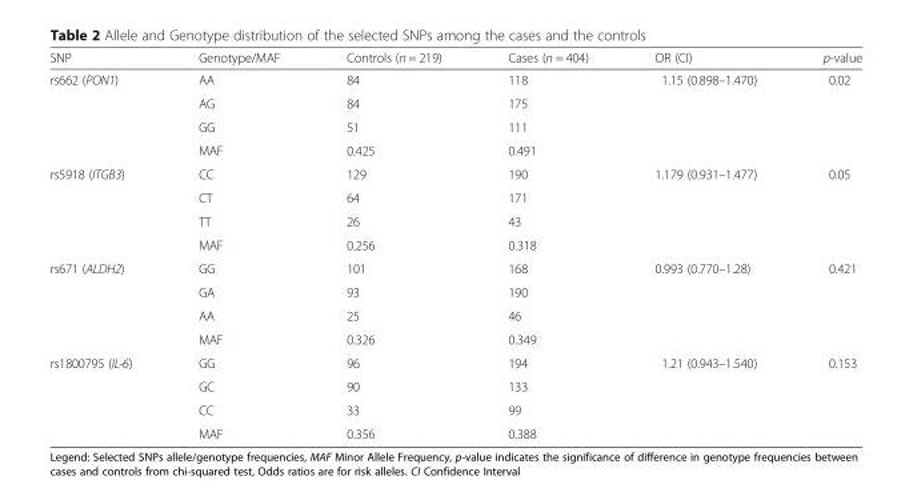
<table><thead><tr><td>SNP</td><td>Genotype/MAF</td><td>Controls (n = 219)</td><td>Cases (n = 404)</td><td>OR (CI)</td><td>p-value</td></tr></thead><tbody><tr><td rowspan="4">rs662 (PON1)</td><td>AA</td><td>84</td><td>118</td><td rowspan="4">1.15 (0.898–1.470)</td><td rowspan="4">0.02</td></tr><tr><td>AG</td><td>84</td><td>175</td></tr><tr><td>GG</td><td>51</td><td>111</td></tr><tr><td>MAF</td><td>0.425</td><td>0.491</td></tr><tr><td rowspan="4">rs5918 (ITGB3)</td><td>CC</td><td>129</td><td>190</td><td rowspan="4">1.179 (0.931–1.477)</td><td rowspan="4">0.05</td></tr><tr><td>CT</td><td>64</td><td>171</td></tr><tr><td>TT</td><td>26</td><td>43</td></tr><tr><td>MAF</td><td>0.256</td><td>0.318</td></tr><tr><td rowspan="4">rs671 (ALDH2)</td><td>GG</td><td>101</td><td>168</td><td rowspan="4">0.993 (0.770–1.28)</td><td rowspan="4">0.421</td></tr><tr><td>GA</td><td>93</td><td>190</td></tr><tr><td>AA</td><td>25</td><td>46</td></tr><tr><td>MAF</td><td>0.326</td><td>0.349</td></tr><tr><td rowspan="4">rs1800795 (IL-6)</td><td>GG</td><td>96</td><td>194</td><td rowspan="4">1.21 (0.943–1.540)</td><td rowspan="4">0.153</td></tr><tr><td>GC</td><td>90</td><td>133</td></tr><tr><td>CC</td><td>33</td><td>99</td></tr><tr><td>MAF</td><td>0.356</td><td>0.388</td></tr></tbody></table>